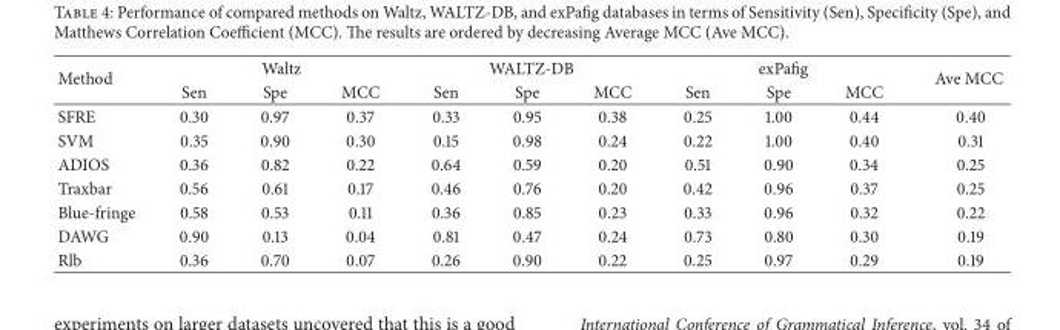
<table><thead><tr><td rowspan="2">Method</td><td colspan="3">Waltz</td><td colspan="3">WALTZ-DB</td><td colspan="3">exPafig</td><td rowspan="2">Ave MCC</td></tr><tr><td>Sen</td><td>Spe</td><td>MCC</td><td>Sen</td><td>Spe</td><td>MCC</td><td>Sen</td><td>Spe</td><td>MCC</td></tr></thead><tbody><tr><td>SFRE</td><td>0.30</td><td>0.97</td><td>0.37</td><td>0.33</td><td>0.95</td><td>0.38</td><td>0.25</td><td>1.00</td><td>0.44</td><td>0.40</td></tr><tr><td>SVM</td><td>0.35</td><td>0.90</td><td>0.30</td><td>0.15</td><td>0.98</td><td>0.24</td><td>0.22</td><td>1.00</td><td>0.40</td><td>0.31</td></tr><tr><td>ADIOS</td><td>0.36</td><td>0.82</td><td>0.22</td><td>0.64</td><td>0.59</td><td>0.20</td><td>0.51</td><td>0.90</td><td>0.34</td><td>0.25</td></tr><tr><td>Traxbar</td><td>0.56</td><td>0.61</td><td>0.17</td><td>0.46</td><td>0.76</td><td>0.20</td><td>0.42</td><td>0.96</td><td>0.37</td><td>0.25</td></tr><tr><td>Blue-fringe</td><td>0.58</td><td>0.53</td><td>0.11</td><td>0.36</td><td>0.85</td><td>0.23</td><td>0.33</td><td>0.96</td><td>0.32</td><td>0.22</td></tr><tr><td>DAWG</td><td>0.90</td><td>0.13</td><td>0.04</td><td>0.81</td><td>0.47</td><td>0.24</td><td>0.73</td><td>0.80</td><td>0.30</td><td>0.19</td></tr><tr><td>Rlb</td><td>0.36</td><td>0.70</td><td>0.07</td><td>0.26</td><td>0.90</td><td>0.22</td><td>0.25</td><td>0.97</td><td>0.29</td><td>0.19</td></tr></tbody></table>